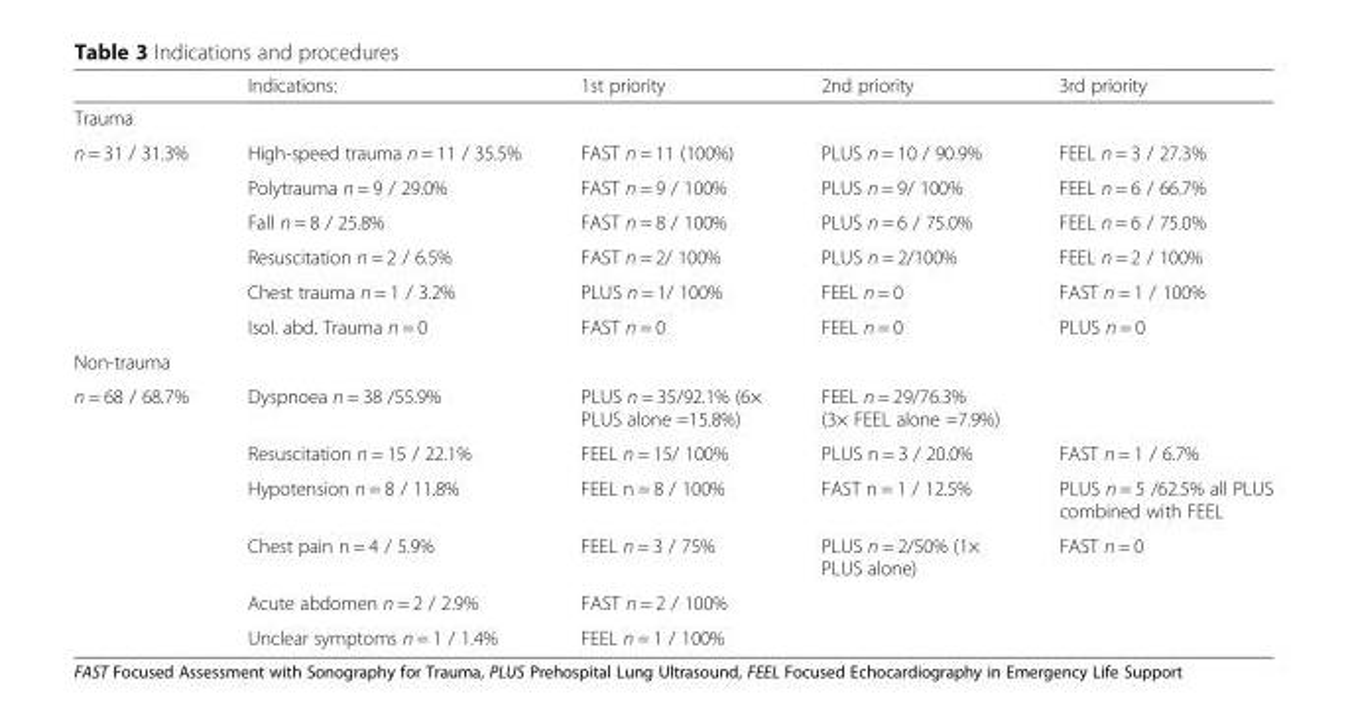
<table><thead><tr><td></td><td>Indications:</td><td>1st priority</td><td>2nd priority</td><td>3rd priority</td></tr></thead><tbody><tr><td colspan="5">Trauma</td></tr><tr><td rowspan="6">n = 31 / 31.3%</td><td>High-speed trauma n = 11 / 35.5%</td><td>FAST n = 11 (100%)</td><td>PLUS n = 10 / 90.9%</td><td>FEEL n = 3 / 27.3%</td></tr><tr><td>Polytrauma n = 9 / 29.0%</td><td>FAST n = 9 / 100%</td><td>PLUS n = 9/ 100%</td><td>FEEL n = 6 / 66.7%</td></tr><tr><td>Fall n = 8 / 25.8%</td><td>FAST n = 8 / 100%</td><td>PLUS n = 6 / 75.0%</td><td>FEEL n = 6 / 75.0%</td></tr><tr><td>Resuscitation n = 2 / 6.5%</td><td>FAST n = 2/ 100%</td><td>PLUS n = 2/100%</td><td>FEEL n = 2 / 100%</td></tr><tr><td>Chest trauma n = 1 / 3.2%</td><td>PLUS n = 1/ 100%</td><td>FEEL n = 0</td><td>FAST n = 1 / 100%</td></tr><tr><td>Isol. abd. Trauma n = 0</td><td>FAST n = 0</td><td>FEEL n = 0</td><td>PLUS n = 0</td></tr><tr><td colspan="5">Non-trauma</td></tr><tr><td rowspan="6">n = 68 / 68.7%</td><td>Dyspnoea n = 38 /55.9%</td><td>PLUS n = 35/92.1% (6× PLUS alone =15.8%)</td><td>FEEL n = 29/76.3% (3× FEEL alone =7.9%)</td><td></td></tr><tr><td>Resuscitation n = 15 / 22.1%</td><td>FEEL n = 15/ 100%</td><td>PLUS n = 3 / 20.0%</td><td>FAST n = 1 / 6.7%</td></tr><tr><td>Hypotension n = 8 / 11.8%</td><td>FEEL n = 8 / 100%</td><td>FAST n = 1 / 12.5%</td><td>PLUS n = 5 /62.5% all PLUS combined with FEEL</td></tr><tr><td>Chest pain n = 4 / 5.9%</td><td>FEEL n = 3 / 75%</td><td>PLUS n = 2/50% (1× PLUS alone)</td><td>FAST n = 0</td></tr><tr><td>Acute abdomen n = 2 / 2.9%</td><td>FAST n = 2 / 100%</td><td></td><td></td></tr><tr><td>Unclear symptoms n = 1 / 1.4%</td><td>FEEL n = 1 / 100%</td><td></td><td></td></tr></tbody></table>